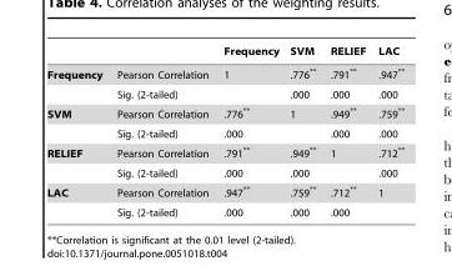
<table><thead><tr><td></td><td></td><td>Frequency</td><td>SVM</td><td>RELIEF</td><td>LAC</td></tr></thead><tbody><tr><td rowspan="2">Frequency</td><td>Pearson Correlation</td><td>1</td><td>.776**</td><td>.791**</td><td>.947**</td></tr><tr><td>Sig. (2-tailed)</td><td></td><td>.000</td><td>.000</td><td>.000</td></tr><tr><td rowspan="2">SVM</td><td>Pearson Correlation</td><td>.776**</td><td>1</td><td>.949**</td><td>.759**</td></tr><tr><td>Sig. (2-tailed)</td><td>.000</td><td></td><td>.000</td><td>.000</td></tr><tr><td rowspan="2">RELIEF</td><td>Pearson Correlation</td><td>.791**</td><td>.949**</td><td>1</td><td>.712**</td></tr><tr><td>Sig. (2-tailed)</td><td>.000</td><td>.000</td><td></td><td>.000</td></tr><tr><td rowspan="2">LAC</td><td>Pearson Correlation</td><td>.947**</td><td>.759**</td><td>.712**</td><td>1</td></tr><tr><td>Sig. (2-tailed)</td><td>.000</td><td>.000</td><td>.000</td><td></td></tr></tbody></table>